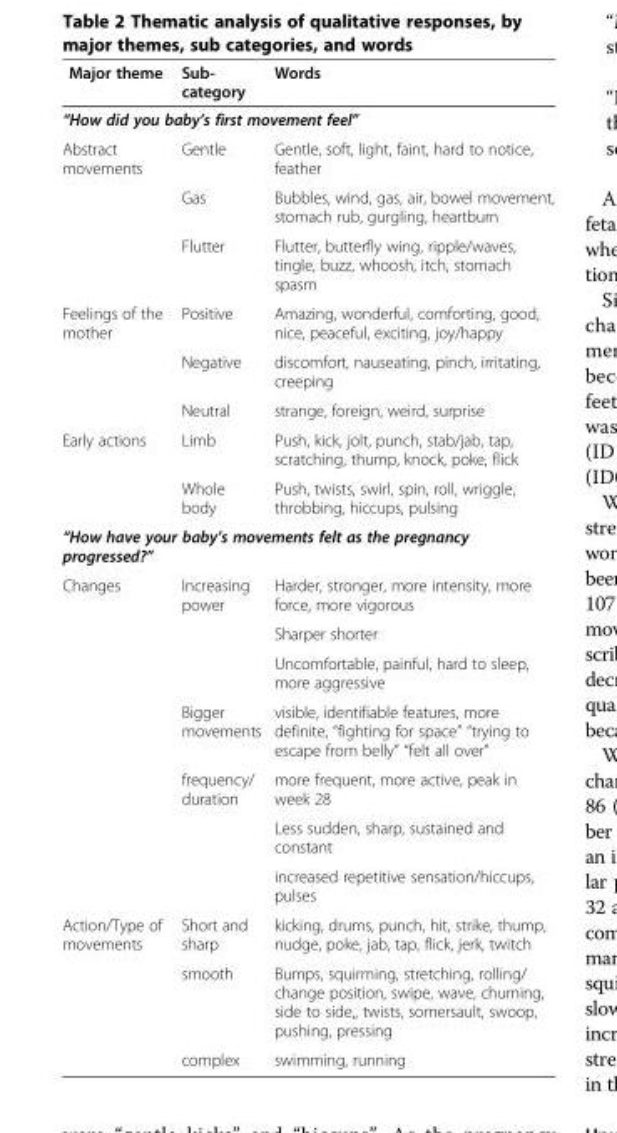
<table><thead><tr><td>Major theme</td><td>Sub- category</td><td>Words</td></tr></thead><tbody><tr><td colspan="3">“How did you baby’s first movement feel”</td></tr><tr><td rowspan="3">Abstract movements</td><td>Gentle</td><td>Gentle, soft, light, faint, hard to notice, feather</td></tr><tr><td>Gas</td><td>Bubbles, wind, gas, air, bowel movement, stomach rub, gurgling, heartburn</td></tr><tr><td>Flutter</td><td>Flutter, butterfly wing, ripple/waves, tingle, buzz, whoosh, itch, stomach spasm</td></tr><tr><td rowspan="3">Feelings of the mother</td><td>Positive</td><td>Amazing, wonderful, comforting, good, nice, peaceful, exciting, joy/happy</td></tr><tr><td>Negative</td><td>discomfort, nauseating, pinch, irritating, creeping</td></tr><tr><td>Neutral</td><td>strange, foreign, weird, surprise</td></tr><tr><td rowspan="2">Early actions</td><td>Limb</td><td>Push, kick, jolt, punch, stab/jab, tap, scratching, thump, knock, poke, flick</td></tr><tr><td>Whole body</td><td>Push, twists, swirl, spin, roll, wriggle, throbbing, hiccups, pulsing</td></tr><tr><td colspan="3">“How have your baby’s movements felt as the pregnancy progressed?”</td></tr><tr><td rowspan="7">Changes</td><td rowspan="3">Increasing power</td><td>Harder, stronger, more intensity, more force, more vigorous</td></tr><tr><td>Sharper shorter</td></tr><tr><td>Uncomfortable, painful, hard to sleep, more aggressive</td></tr><tr><td>Bigger movements</td><td>visible, identifiable features, more definite, “fighting for space” “trying to escape from belly” “felt all over”</td></tr><tr><td rowspan="3">frequency/ duration</td><td>more frequent, more active, peak in week 28</td></tr><tr><td>Less sudden, sharp, sustained and constant</td></tr><tr><td>increased repetitive sensation/hiccups, pulses</td></tr><tr><td rowspan="3">Action/Type of movements</td><td>Short and sharp</td><td>kicking, drums, punch, hit, strike, thump, nudge, poke, jab, tap, flick, jerk, twitch</td></tr><tr><td>smooth</td><td>Bumps, squirming, stretching, rolling/ change position, swipe, wave, churning, side to side,, twists, somersault, swoop, pushing, pressing</td></tr><tr><td>complex</td><td>swimming, running</td></tr></tbody></table>